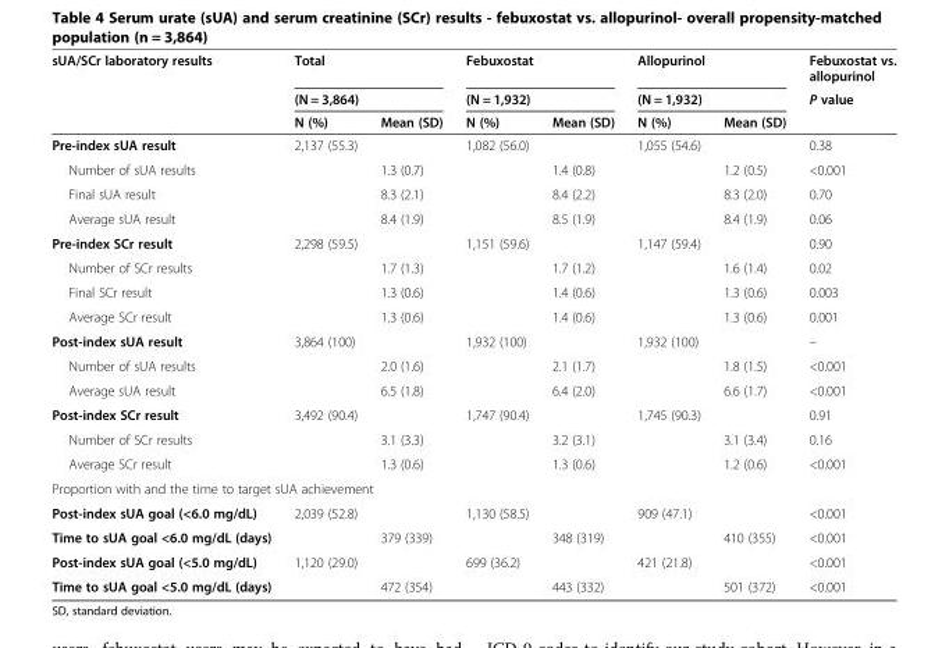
<table><thead><tr><td rowspan="3">sUA/SCr laboratory results</td><td rowspan="2" colspan="2">Total (N = 3,864)</td><td rowspan="2" colspan="2">Febuxostat (N = 1,932)</td><td rowspan="2" colspan="2">Allopurinol (N = 1,932)</td><td rowspan="3">Febuxostat vs. allopurinol P value</td></tr><tr></tr><tr><td>N (%)</td><td>Mean (SD)</td><td>N (%)</td><td>Mean (SD)</td><td>N (%)</td><td>Mean (SD)</td></tr></thead><tbody><tr><td>Pre-index sUA result</td><td>2,137 (55.3)</td><td></td><td>1,082 (56.0)</td><td></td><td>1,055 (54.6)</td><td></td><td>0.38</td></tr><tr><td>Number of sUA results</td><td></td><td>1.3 (0.7)</td><td></td><td>1.4 (0.8)</td><td></td><td>1.2 (0.5)</td><td>&lt;0.001</td></tr><tr><td>Final sUA result</td><td></td><td>8.3 (2.1)</td><td></td><td>8.4 (2.2)</td><td></td><td>8.3 (2.0)</td><td>0.70</td></tr><tr><td>Average sUA result</td><td></td><td>8.4 (1.9)</td><td></td><td>8.5 (1.9)</td><td></td><td>8.4 (1.9)</td><td>0.06</td></tr><tr><td>Pre-index SCr result</td><td>2,298 (59.5)</td><td></td><td>1,151 (59.6)</td><td></td><td>1,147 (59.4)</td><td></td><td>0.90</td></tr><tr><td>Number of SCr results</td><td></td><td>1.7 (1.3)</td><td></td><td>1.7 (1.2)</td><td></td><td>1.6 (1.4)</td><td>0.02</td></tr><tr><td>Final SCr result</td><td></td><td>1.3 (0.6)</td><td></td><td>1.4 (0.6)</td><td></td><td>1.3 (0.6)</td><td>0.003</td></tr><tr><td>Average SCr result</td><td></td><td>1.3 (0.6)</td><td></td><td>1.4 (0.6)</td><td></td><td>1.3 (0.6)</td><td>0.001</td></tr><tr><td>Post-index sUA result</td><td>3,864 (100)</td><td></td><td>1,932 (100)</td><td></td><td>1,932 (100)</td><td></td><td>–</td></tr><tr><td>Number of sUA results</td><td></td><td>2.0 (1.6)</td><td></td><td>2.1 (1.7)</td><td></td><td>1.8 (1.5)</td><td>&lt;0.001</td></tr><tr><td>Average sUA result</td><td></td><td>6.5 (1.8)</td><td></td><td>6.4 (2.0)</td><td></td><td>6.6 (1.7)</td><td>&lt;0.001</td></tr><tr><td>Post-index SCr result</td><td>3,492 (90.4)</td><td></td><td>1,747 (90.4)</td><td></td><td>1,745 (90.3)</td><td></td><td>0.91</td></tr><tr><td>Number of SCr results</td><td></td><td>3.1 (3.3)</td><td></td><td>3.2 (3.1)</td><td></td><td>3.1 (3.4)</td><td>0.16</td></tr><tr><td>Average SCr result</td><td></td><td>1.3 (0.6)</td><td></td><td>1.3 (0.6)</td><td></td><td>1.2 (0.6)</td><td>&lt;0.001</td></tr><tr><td colspan="8">Proportion with and the time to target sUA achievement</td></tr><tr><td>Post-index sUA goal (&lt;6.0 mg/dL)</td><td>2,039 (52.8)</td><td></td><td>1,130 (58.5)</td><td></td><td>909 (47.1)</td><td></td><td>&lt;0.001</td></tr><tr><td>Time to sUA goal &lt;6.0 mg/dL (days)</td><td></td><td>379 (339)</td><td></td><td>348 (319)</td><td></td><td>410 (355)</td><td>&lt;0.001</td></tr><tr><td>Post-index sUA goal (&lt;5.0 mg/dL)</td><td>1,120 (29.0)</td><td></td><td>699 (36.2)</td><td></td><td>421 (21.8)</td><td></td><td>&lt;0.001</td></tr><tr><td>Time to sUA goal &lt;5.0 mg/dL (days)</td><td></td><td>472 (354)</td><td></td><td>443 (332)</td><td></td><td>501 (372)</td><td>&lt;0.001</td></tr></tbody></table>